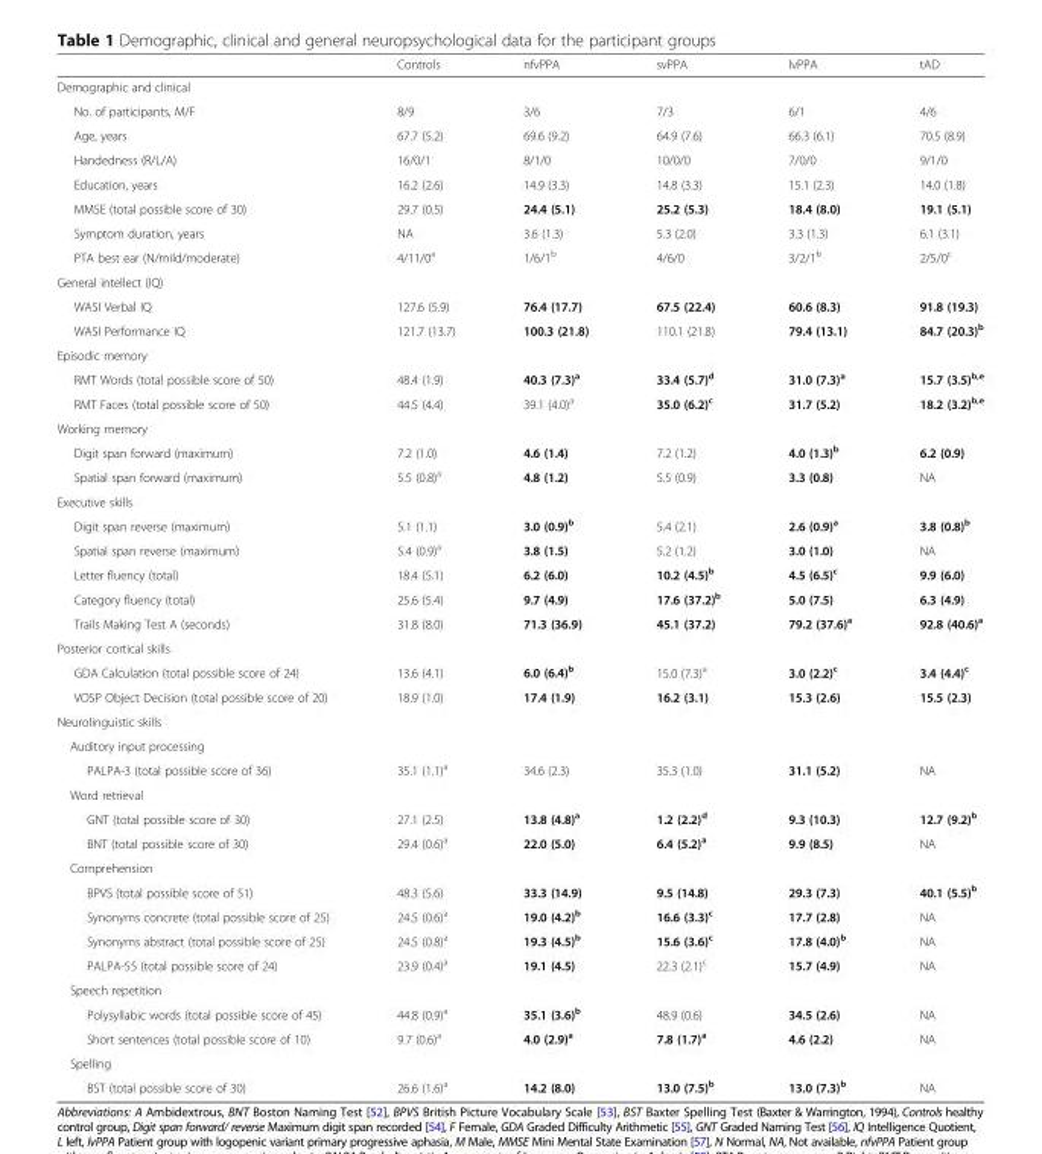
<table><thead><tr><td></td><td>Controls</td><td>nfvPPA</td><td>svPPA</td><td>lvPPA</td><td>tAD</td></tr></thead><tbody><tr><td colspan="6">Demographic and clinical</td></tr><tr><td>No. of participants, M/F</td><td>8/9</td><td>3/6</td><td>7/3</td><td>6/1</td><td>4/6</td></tr><tr><td>Age, years</td><td>67.7 (5.2)</td><td>69.6 (9.2)</td><td>64.9 (7.6)</td><td>66.3 (6.1)</td><td>70.5 (8.9)</td></tr><tr><td>Handedness (R/L/A)</td><td>16/0/1</td><td>8/1/0</td><td>10/0/0</td><td>7/0/0</td><td>9/1/0</td></tr><tr><td>Education, years</td><td>16.2 (2.6)</td><td>14.9 (3.3)</td><td>14.8 (3.3)</td><td>15.1 (2.3)</td><td>14.0 (1.8)</td></tr><tr><td>MMSE (total possible score of 30)</td><td>29.7 (0.5)</td><td>24.4 (5.1)</td><td>25.2 (5.3)</td><td>18.4 (8.0)</td><td>19.1 (5.1)</td></tr><tr><td>Symptom duration, years</td><td>NA</td><td>3.6 (1.3)</td><td>5.3 (2.0)</td><td>3.3 (1.3)</td><td>6.1 (3.1)</td></tr><tr><td>PTA best ear (N/mild/moderate)</td><td>4/11/0<sup>a</sup></td><td>1/6/1<sup>b</sup></td><td>4/6/0</td><td>3/2/1<sup>b</sup></td><td>2/5/0<sup>c</sup></td></tr><tr><td colspan="6">General intellect (IQ)</td></tr><tr><td>WASI Verbal IQ</td><td>127.6 (5.9)</td><td>76.4 (17.7)</td><td>67.5 (22.4)</td><td>60.6 (8.3)</td><td>91.8 (19.3)</td></tr><tr><td>WASI Performance IQ</td><td>121.7 (13.7)</td><td>100.3 (21.8)</td><td>110.1 (21.8)</td><td>79.4 (13.1)</td><td>84.7 (20.3)<sup>b</sup></td></tr><tr><td colspan="6">Episodic memory</td></tr><tr><td>RMT Words (total possible score of 50)</td><td>48.4 (1.9)</td><td>40.3 (7.3)<sup>a</sup></td><td>33.4 (5.7)<sup>d</sup></td><td>31.0 (7.3)<sup>a</sup></td><td>15.7 (3.5)<sup>b,e</sup></td></tr><tr><td>RMT Faces (total possible score of 50)</td><td>44.5 (4.4)</td><td>39.1 (4.0)<sup>a</sup></td><td>35.0 (6.2)<sup>c</sup></td><td>31.7 (5.2)</td><td>18.2 (3.2)<sup>b,e</sup></td></tr><tr><td colspan="6">Working memory</td></tr><tr><td>Digit span forward (maximum)</td><td>7.2 (1.0)</td><td>4.6 (1.4)</td><td>7.2 (1.2)</td><td>4.0 (1.3)<sup>b</sup></td><td>6.2 (0.9)</td></tr><tr><td>Spatial span forward (maximum)</td><td>5.5 (0.8)<sup>a</sup></td><td>4.8 (1.2)</td><td>5.5 (0.9)</td><td>3.3 (0.8)</td><td>NA</td></tr><tr><td colspan="6">Executive skills</td></tr><tr><td>Digit span reverse (maximum)</td><td>5.1 (1.1)</td><td>3.0 (0.9)<sup>b</sup></td><td>5.4 (2.1)</td><td>2.6 (0.9)<sup>a</sup></td><td>3.8 (0.8)<sup>b</sup></td></tr><tr><td>Spatial span reverse (maximum)</td><td>5.4 (0.9)<sup>a</sup></td><td>3.8 (1.5)</td><td>5.2 (1.2)</td><td>3.0 (1.0)</td><td>NA</td></tr><tr><td>Letter fluency (total)</td><td>18.4 (5.1)</td><td>6.2 (6.0)</td><td>10.2 (4.5)<sup>b</sup></td><td>4.5 (6.5)<sup>c</sup></td><td>9.9 (6.0)</td></tr><tr><td>Category fluency (total)</td><td>25.6 (5.4)</td><td>9.7 (4.9)</td><td>17.6 (37.2)<sup>b</sup></td><td>5.0 (7.5)</td><td>6.3 (4.9)</td></tr><tr><td>Trails Making Test A (seconds)</td><td>31.8 (8.0)</td><td>71.3 (36.9)</td><td>45.1 (37.2)</td><td>79.2 (37.6)<sup>a</sup></td><td>92.8 (40.6)<sup>a</sup></td></tr><tr><td colspan="6">Posterior cortical skills</td></tr><tr><td>GDA Calculation (total possible score of 24)</td><td>13.6 (4.1)</td><td>6.0 (6.4)<sup>b</sup></td><td>15.0 (7.3)<sup>a</sup></td><td>3.0 (2.2)<sup>c</sup></td><td>3.4 (4.4)<sup>c</sup></td></tr><tr><td>VOSP Object Decision (total possible score of 20)</td><td>18.9 (1.0)</td><td>17.4 (1.9)</td><td>16.2 (3.1)</td><td>15.3 (2.6)</td><td>15.5 (2.3)</td></tr><tr><td colspan="6">Neurolinguistic skills</td></tr><tr><td colspan="6">Auditory input processing</td></tr><tr><td>PALPA-3 (total possible score of 36)</td><td>35.1 (1.1)<sup>a</sup></td><td>34.6 (2.3)</td><td>35.3 (1.0)</td><td>31.1 (5.2)</td><td>NA</td></tr><tr><td colspan="6">Word retrieval</td></tr><tr><td>GNT (total possible score of 30)</td><td>27.1 (2.5)</td><td>13.8 (4.8)<sup>a</sup></td><td>1.2 (2.2)<sup>d</sup></td><td>9.3 (10.3)</td><td>12.7 (9.2)<sup>b</sup></td></tr><tr><td>BNT (total possible score of 30)</td><td>29.4 (0.6)<sup>a</sup></td><td>22.0 (5.0)</td><td>6.4 (5.2)<sup>a</sup></td><td>9.9 (8.5)</td><td>NA</td></tr><tr><td colspan="6">Comprehension</td></tr><tr><td>BPVS (total possible score of 51)</td><td>48.3 (5.6)</td><td>33.3 (14.9)</td><td>9.5 (14.8)</td><td>29.3 (7.3)</td><td>40.1 (5.5)<sup>b</sup></td></tr><tr><td>Synonyms concrete (total possible score of 25)</td><td>24.5 (0.6)<sup>a</sup></td><td>19.0 (4.2)<sup>b</sup></td><td>16.6 (3.3)<sup>c</sup></td><td>17.7 (2.8)</td><td>NA</td></tr><tr><td>Synonyms abstract (total possible score of 25)</td><td>24.5 (0.8)<sup>a</sup></td><td>19.3 (4.5)<sup>b</sup></td><td>15.6 (3.6)<sup>c</sup></td><td>17.8 (4.0)<sup>b</sup></td><td>NA</td></tr><tr><td>PALPA-55 (total possible score of 24)</td><td>23.9 (0.4)<sup>a</sup></td><td>19.1 (4.5)</td><td>22.3 (2.1)<sup>c</sup></td><td>15.7 (4.9)</td><td>NA</td></tr><tr><td colspan="6">Speech repetition</td></tr><tr><td>Polysyllabic words (total possible score of 45)</td><td>44.8 (0.9)<sup>a</sup></td><td>35.1 (3.6)<sup>b</sup></td><td>48.9 (0.6)</td><td>34.5 (2.6)</td><td>NA</td></tr><tr><td>Short sentences (total possible score of 10)</td><td>9.7 (0.6)<sup>a</sup></td><td>4.0 (2.9)<sup>a</sup></td><td>7.8 (1.7)<sup>a</sup></td><td>4.6 (2.2)</td><td>NA</td></tr><tr><td colspan="6">Spelling</td></tr><tr><td>BST (total possible score of 30)</td><td>26.6 (1.6)<sup>a</sup></td><td>14.2 (8.0)</td><td>13.0 (7.5)<sup>b</sup></td><td>13.0 (7.3)<sup>b</sup></td><td>NA</td></tr></tbody></table>